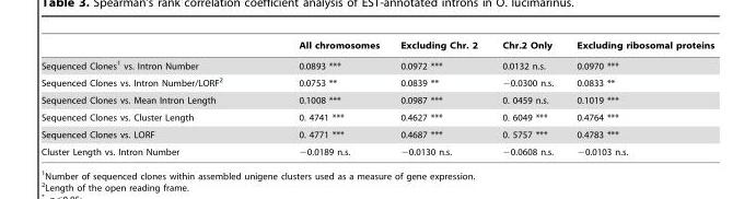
<table><thead><tr><td></td><td>All chromosomes</td><td>Excluding Chr. 2</td><td>Chr.2 Only</td><td>Excluding ribosomal proteins</td></tr></thead><tbody><tr><td>Sequenced Clones<sup>1</sup> vs. Intron Number</td><td>0.0893 ***</td><td>0.0972 ***</td><td>0.0132 n.s.</td><td>0.0970 ***</td></tr><tr><td>Sequenced Clones vs. Intron Number/LORF<sup>2</sup></td><td>0.0753 **</td><td>0.0839 **</td><td>−0.0300 n.s.</td><td>0.0833 **</td></tr><tr><td>Sequenced Clones vs. Mean Intron Length</td><td>0.1008 ***</td><td>0.0987 ***</td><td>0. 0459 n.s.</td><td>0.1019 ***</td></tr><tr><td>Sequenced Clones vs. Cluster Length</td><td>0. 4741 ***</td><td>0.4627 ***</td><td>0. 6049 ***</td><td>0.4764 ***</td></tr><tr><td>Sequenced Clones vs. LORF</td><td>0. 4771 ***</td><td>0.4687 ***</td><td>0. 5757 ***</td><td>0.4783 ***</td></tr><tr><td>Cluster Length vs. Intron Number</td><td>−0.0189 n.s.</td><td>−0.0130 n.s.</td><td>−0.0608 n.s.</td><td>−0.0103 n.s.</td></tr></tbody></table>